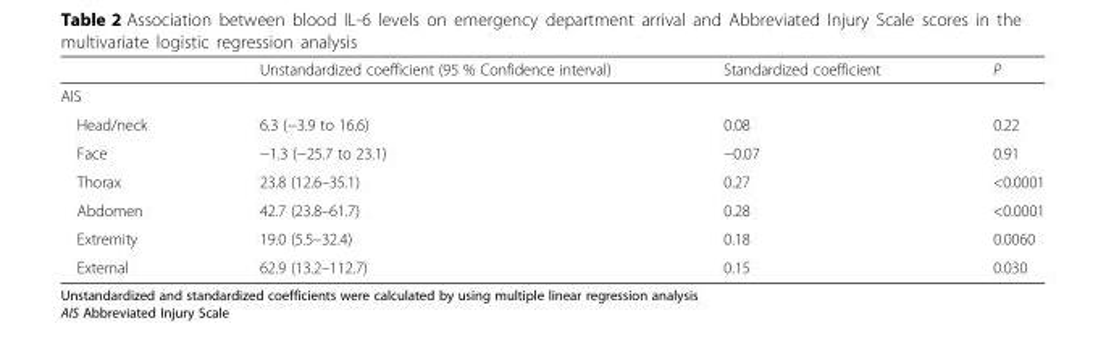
<table><thead><tr><td></td><td>Unstandardized coefficient (95 % Confidence interval)</td><td>Standardized coefficient</td><td>P</td></tr></thead><tbody><tr><td colspan="4">AIS</td></tr><tr><td>Head/neck</td><td>6.3 (−3.9 to 16.6)</td><td>0.08</td><td>0.22</td></tr><tr><td>Face</td><td>−1.3 (−25.7 to 23.1)</td><td>−0.07</td><td>0.91</td></tr><tr><td>Thorax</td><td>23.8 (12.6–35.1)</td><td>0.27</td><td>&lt;0.0001</td></tr><tr><td>Abdomen</td><td>42.7 (23.8–61.7)</td><td>0.28</td><td>&lt;0.0001</td></tr><tr><td>Extremity</td><td>19.0 (5.5–32.4)</td><td>0.18</td><td>0.0060</td></tr><tr><td>External</td><td>62.9 (13.2–112.7)</td><td>0.15</td><td>0.030</td></tr></tbody></table>